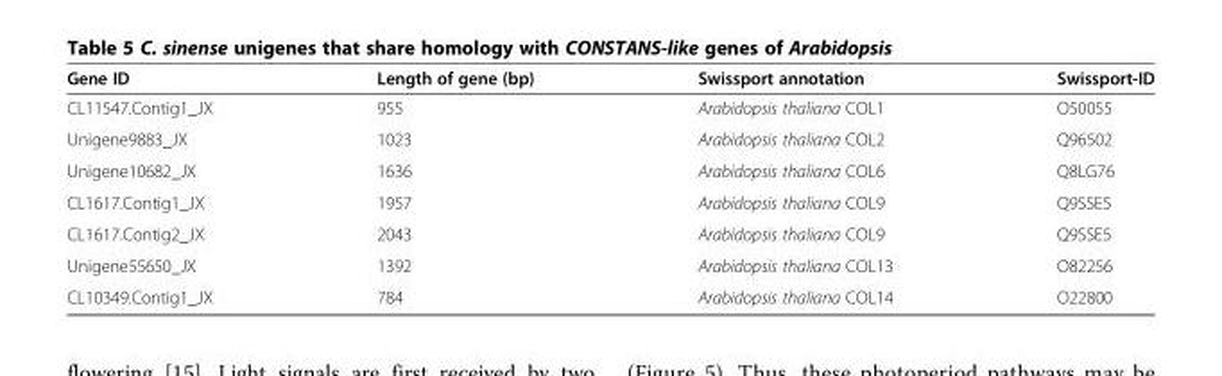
<table><thead><tr><td>Gene ID</td><td>Length of gene (bp)</td><td>Swissport annotation</td><td>Swissport-ID</td></tr></thead><tbody><tr><td>CL11547.Contig1_JX</td><td>955</td><td>Arabidopsis thaliana COL1</td><td>O50055</td></tr><tr><td>Unigene9883_JX</td><td>1023</td><td>Arabidopsis thaliana COL2</td><td>Q96502</td></tr><tr><td>Unigene10682_JX</td><td>1636</td><td>Arabidopsis thaliana COL6</td><td>Q8LG76</td></tr><tr><td>CL1617.Contig1_JX</td><td>1957</td><td>Arabidopsis thaliana COL9</td><td>Q9SSE5</td></tr><tr><td>CL1617.Contig2_JX</td><td>2043</td><td>Arabidopsis thaliana COL9</td><td>Q9SSE5</td></tr><tr><td>Unigene55650_JX</td><td>1392</td><td>Arabidopsis thaliana COL13</td><td>O82256</td></tr><tr><td>CL10349.Contig1_JX</td><td>784</td><td>Arabidopsis thaliana COL14</td><td>O22800</td></tr></tbody></table>